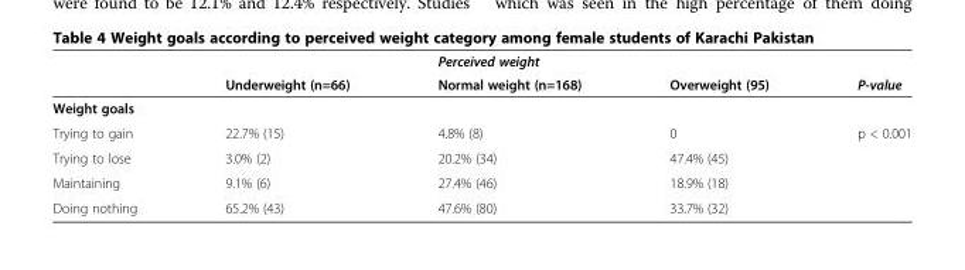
<table><thead><tr><td rowspan="2"></td><td rowspan="2">Underweight (n=66)</td><td rowspan="2">Perceived weight Normal weight (n=168)</td><td rowspan="2">Overweight (95)</td><td rowspan="2">P-value</td></tr><tr></tr></thead><tbody><tr><td colspan="5">Weight goals</td></tr><tr><td>Trying to gain</td><td>22.7% (15)</td><td>4.8% (8)</td><td>0</td><td>p &lt; 0.001</td></tr><tr><td>Trying to lose</td><td>3.0% (2)</td><td>20.2% (34)</td><td>47.4% (45)</td><td></td></tr><tr><td>Maintaining</td><td>9.1% (6)</td><td>27.4% (46)</td><td>18.9% (18)</td><td></td></tr><tr><td>Doing nothing</td><td>65.2% (43)</td><td>47.6% (80)</td><td>33.7% (32)</td><td></td></tr></tbody></table>